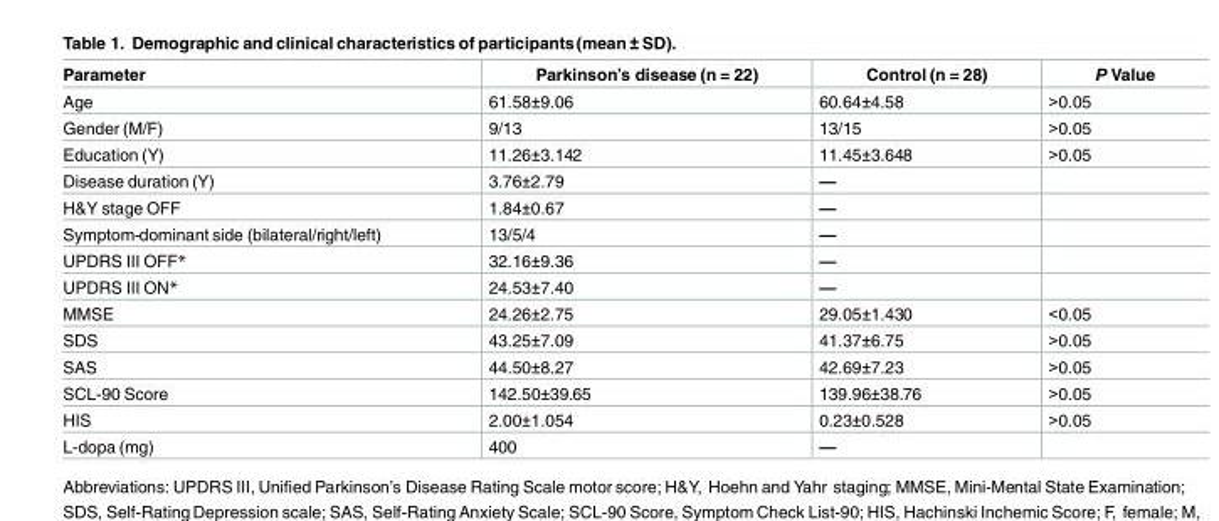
<table><thead><tr><td>Parameter</td><td>Parkinson’s disease (n = 22)</td><td>Control (n = 28)</td><td>P Value</td></tr></thead><tbody><tr><td>Age</td><td>61.58±9.06</td><td>60.64±4.58</td><td>&gt;0.05</td></tr><tr><td>Gender (M/F)</td><td>9/13</td><td>13/15</td><td>&gt;0.05</td></tr><tr><td>Education (Y)</td><td>11.26±3.142</td><td>11.45±3.648</td><td>&gt;0.05</td></tr><tr><td>Disease duration (Y)</td><td>3.76±2.79</td><td>—</td><td></td></tr><tr><td>H&amp;Y stage OFF</td><td>1.84±0.67</td><td>—</td><td></td></tr><tr><td>Symptom-dominant side (bilateral/right/left)</td><td>13/5/4</td><td>—</td><td></td></tr><tr><td>UPDRS III OFF*</td><td>32.16±9.36</td><td>—</td><td></td></tr><tr><td>UPDRS III ON*</td><td>24.53±7.40</td><td>—</td><td></td></tr><tr><td>MMSE</td><td>24.26±2.75</td><td>29.05±1.430</td><td>&lt;0.05</td></tr><tr><td>SDS</td><td>43.25±7.09</td><td>41.37±6.75</td><td>&gt;0.05</td></tr><tr><td>SAS</td><td>44.50±8.27</td><td>42.69±7.23</td><td>&gt;0.05</td></tr><tr><td>SCL-90 Score</td><td>142.50±39.65</td><td>139.96±38.76</td><td>&gt;0.05</td></tr><tr><td>HIS</td><td>2.00±1.054</td><td>0.23±0.528</td><td>&gt;0.05</td></tr><tr><td>L-dopa (mg)</td><td>400</td><td>—</td><td></td></tr></tbody></table>